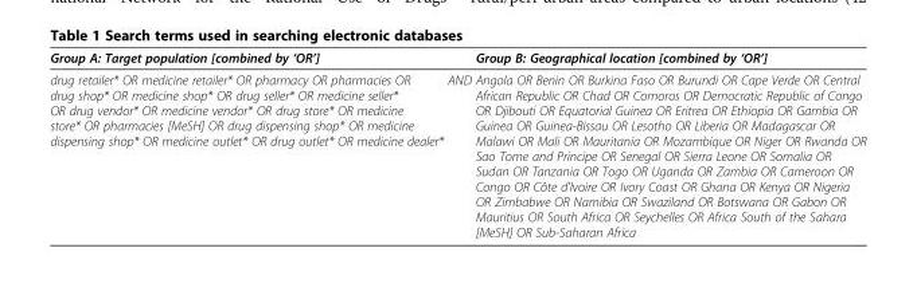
<table><thead><tr><td>Group A: Target population [combined by ‘OR’]</td><td></td><td>Group B: Geographical location [combined by ‘OR’]</td></tr></thead><tbody><tr><td>drug retailer* OR medicine retailer* OR pharmacy OR pharmacies OR drug shop* OR medicine shop* OR drug seller* OR medicine seller* OR drug vendor* OR medicine vendor* OR drug store* OR medicine store* OR pharmacies [MeSH] OR drug dispensing shop* OR medicine dispensing shop* OR medicine outlet* OR drug outlet* OR medicine dealer*</td><td>AND</td><td>Angola OR Benin OR Burkina Faso OR Burundi OR Cape Verde OR Central African Republic OR Chad OR Comoros OR Democratic Republic of Congo OR Djibouti OR Equatorial Guinea OR Eritrea OR Ethiopia OR Gambia OR Guinea OR Guinea-Bissau OR Lesotho OR Liberia OR Madagascar OR Malawi OR Mali OR Mauritania OR Mozambique OR Niger OR Rwanda OR Sao Tome and Principe OR Senegal OR Sierra Leone OR Somalia OR Sudan OR Tanzania OR Togo OR Uganda OR Zambia OR Cameroon OR Congo OR Côte d&#x27;Ivoire OR Ivory Coast OR Ghana OR Kenya OR Nigeria OR Zimbabwe OR Namibia OR Swaziland OR Botswana OR Gabon OR Mauritius OR South Africa OR Seychelles OR Africa South of the Sahara [MeSH] OR Sub-Saharan Africa</td></tr></tbody></table>